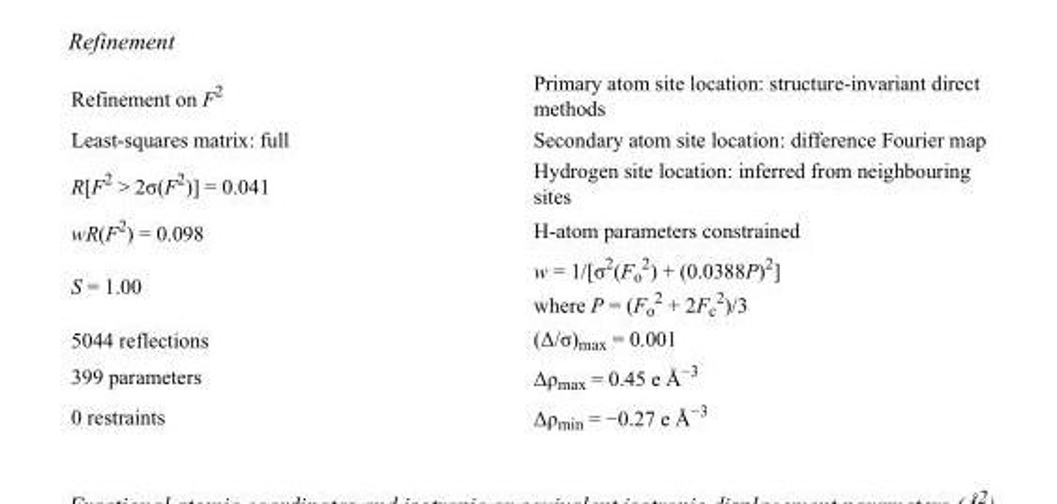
<table><tbody><tr><td>Refinement on F<sup>2</sup></td><td>Primary atom site location: structure-invariant direct methods</td></tr><tr><td>Least-squares matrix: full</td><td>Secondary atom site location: difference Fourier map</td></tr><tr><td>R[F<sup>2</sup> &gt; 2σ(F<sup>2</sup>)] = 0.041</td><td>Hydrogen site location: inferred from neighbouring sites</td></tr><tr><td>wR(F<sup>2</sup>) = 0.098</td><td>H-atom parameters constrained</td></tr><tr><td>S = 1.00</td><td>w = 1/[σ<sup>2</sup>(F<sub>o</sub> <sup>2</sup>) + (0.0388P)<sup>2</sup>] where P = (F<sub>o</sub> <sup>2</sup> + 2F<sub>c</sub> <sup>2</sup>)/3</td></tr><tr><td>5044 reflections</td><td>(Δ/σ)<sub>max</sub> = 0.001</td></tr><tr><td>399 parameters</td><td>Δρ<sub>max</sub> = 0.45 e Å<sup>−3</sup></td></tr><tr><td>0 restraints</td><td>Δρ<sub>min</sub> = −0.27 e Å<sup>−3</sup></td></tr></tbody></table>